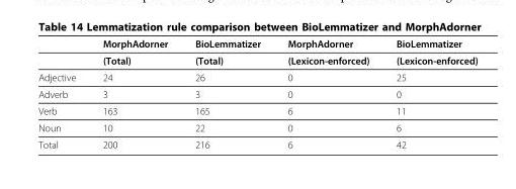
<table><thead><tr><td></td><td>MorphAdorner</td><td>BioLemmatizer</td><td>MorphAdorner</td><td>BioLemmatizer</td></tr></thead><tbody><tr><td></td><td>(Total)</td><td>(Total)</td><td>(Lexicon-enforced)</td><td>(Lexicon-enforced)</td></tr><tr><td>Adjective</td><td>24</td><td>26</td><td>0</td><td>25</td></tr><tr><td>Adverb</td><td>3</td><td>3</td><td>0</td><td>0</td></tr><tr><td>Verb</td><td>163</td><td>165</td><td>6</td><td>11</td></tr><tr><td>Noun</td><td>10</td><td>22</td><td>0</td><td>6</td></tr><tr><td>Total</td><td>200</td><td>216</td><td>6</td><td>42</td></tr></tbody></table>